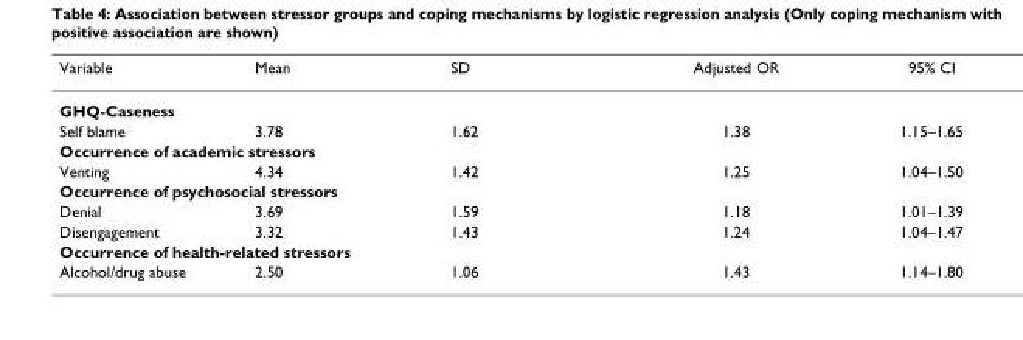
<table><thead><tr><td>Variable</td><td>Mean</td><td>SD</td><td>Adjusted OR</td><td>95% CI</td></tr></thead><tbody><tr><td colspan="5">GHQ-Caseness</td></tr><tr><td>Self blame</td><td>3.78</td><td>1.62</td><td>1.38</td><td>1.15–1.65</td></tr><tr><td colspan="5">Occurrence of academic stressors</td></tr><tr><td>Venting</td><td>4.34</td><td>1.42</td><td>1.25</td><td>1.04–1.50</td></tr><tr><td colspan="5">Occurrence of psychosocial stressors</td></tr><tr><td>Denial</td><td>3.69</td><td>1.59</td><td>1.18</td><td>1.01–1.39</td></tr><tr><td>Disengagement</td><td>3.32</td><td>1.43</td><td>1.24</td><td>1.04–1.47</td></tr><tr><td colspan="5">Occurrence of health-related stressors</td></tr><tr><td>Alcohol/drug abuse</td><td>2.50</td><td>1.06</td><td>1.43</td><td>1.14–1.80</td></tr></tbody></table>